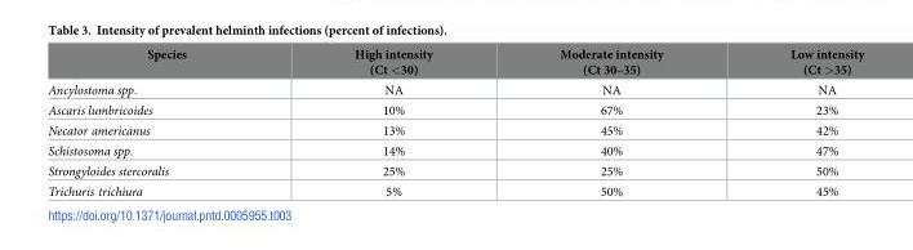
<table><thead><tr><td>Species</td><td>High intensity (Ct &lt;30)</td><td>Moderate intensity (Ct 30–35)</td><td>Low intensity (Ct &gt;35)</td></tr></thead><tbody><tr><td>Ancylostoma spp.</td><td>NA</td><td>NA</td><td>NA</td></tr><tr><td>Ascaris lumbricoides</td><td>10%</td><td>67%</td><td>23%</td></tr><tr><td>Necator americanus</td><td>13%</td><td>45%</td><td>42%</td></tr><tr><td>Schistosoma spp.</td><td>14%</td><td>40%</td><td>47%</td></tr><tr><td>Strongyloides stercoralis</td><td>25%</td><td>25%</td><td>50%</td></tr><tr><td>Trichuris trichiura</td><td>5%</td><td>50%</td><td>45%</td></tr></tbody></table>